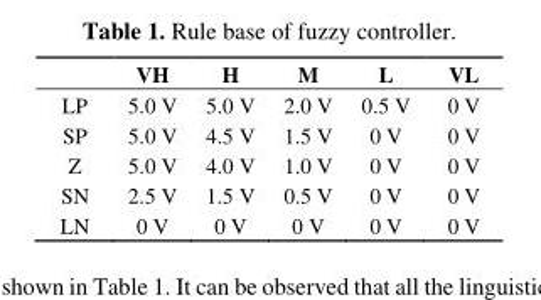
<table><thead><tr><td></td><td>VH</td><td>H</td><td>M</td><td>L</td><td>VL</td></tr></thead><tbody><tr><td>LP</td><td>5.0 V</td><td>5.0 V</td><td>2.0 V</td><td>0.5 V</td><td>0 V</td></tr><tr><td>SP</td><td>5.0 V</td><td>4.5 V</td><td>1.5 V</td><td>0 V</td><td>0 V</td></tr><tr><td>Z</td><td>5.0 V</td><td>4.0 V</td><td>1.0 V</td><td>0 V</td><td>0 V</td></tr><tr><td>SN</td><td>2.5 V</td><td>1.5 V</td><td>0.5 V</td><td>0 V</td><td>0 V</td></tr><tr><td>LN</td><td>0 V</td><td>0 V</td><td>0 V</td><td>0 V</td><td>0 V</td></tr></tbody></table>